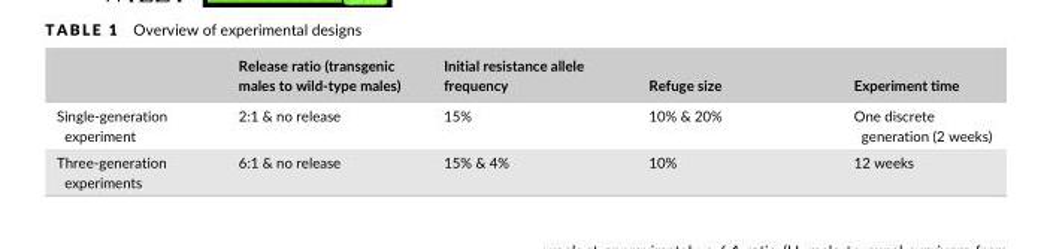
<table><thead><tr><td></td><td>Release ratio (transgenic males to wild- type males)</td><td>Initial resistance allele frequency</td><td>Refuge size</td><td>Experiment time</td></tr></thead><tbody><tr><td>Single- generation experiment</td><td>2:1 &amp; no release</td><td>15%</td><td>10% &amp; 20%</td><td>One discrete generation (2 weeks)</td></tr><tr><td>Three- generation experiments</td><td>6:1 &amp; no release</td><td>15% &amp; 4%</td><td>10%</td><td>12 weeks</td></tr></tbody></table>